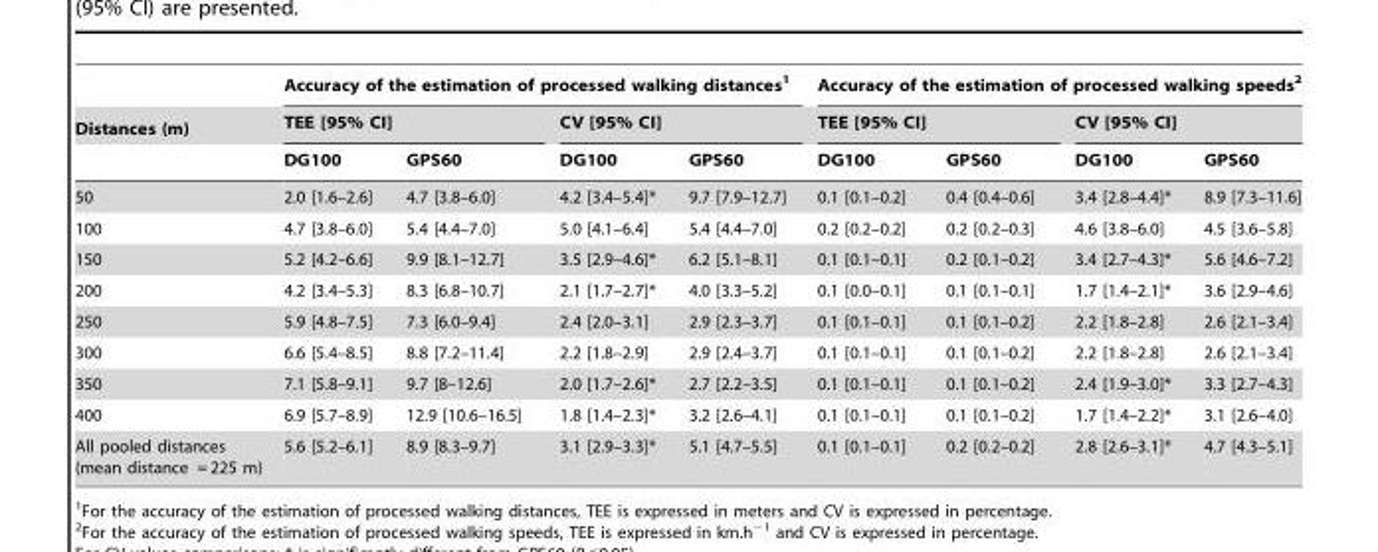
<table><thead><tr><td rowspan="3">Distances (m)</td><td colspan="4">Accuracy of the estimation of processed walking distances<sup>1</sup></td><td colspan="4">Accuracy of the estimation of processed walking speeds<sup>2</sup></td></tr><tr><td colspan="2">TEE [95% CI]</td><td colspan="2">CV [95% CI]</td><td colspan="2">TEE [95% CI]</td><td colspan="2">CV [95% CI]</td></tr><tr><td>DG100</td><td>GPS60</td><td>DG100</td><td>GPS60</td><td>DG100</td><td>GPS60</td><td>DG100</td><td>GPS60</td></tr></thead><tbody><tr><td>50</td><td>2.0 [1.6–2.6]</td><td>4.7 [3.8–6.0]</td><td>4.2 [3.4–5.4]*</td><td>9.7 [7.9–12.7]</td><td>0.1 [0.1–0.2]</td><td>0.4 [0.4–0.6]</td><td>3.4 [2.8–4.4]*</td><td>8.9 [7.3–11.6]</td></tr><tr><td>100</td><td>4.7 [3.8–6.0]</td><td>5.4 [4.4–7.0]</td><td>5.0 [4.1–6.4]</td><td>5.4 [4.4–7.0]</td><td>0.2 [0.2–0.2]</td><td>0.2 [0.2–0.3]</td><td>4.6 [3.8–6.0]</td><td>4.5 [3.6–5.8]</td></tr><tr><td>150</td><td>5.2 [4.2–6.6]</td><td>9.9 [8.1–12.7]</td><td>3.5 [2.9–4.6]*</td><td>6.2 [5.1–8.1]</td><td>0.1 [0.1–0.1]</td><td>0.2 [0.1–0.2]</td><td>3.4 [2.7–4.3]*</td><td>5.6 [4.6–7.2]</td></tr><tr><td>200</td><td>4.2 [3.4–5.3]</td><td>8.3 [6.8–10.7]</td><td>2.1 [1.7–2.7]*</td><td>4.0 [3.3–5.2]</td><td>0.1 [0.0–0.1]</td><td>0.1 [0.1–0.1]</td><td>1.7 [1.4–2.1]*</td><td>3.6 [2.9–4.6]</td></tr><tr><td>250</td><td>5.9 [4.8–7.5]</td><td>7.3 [6.0–9.4]</td><td>2.4 [2.0–3.1]</td><td>2.9 [2.3–3.7]</td><td>0.1 [0.1–0.1]</td><td>0.1 [0.1–0.2]</td><td>2.2 [1.8–2.8]</td><td>2.6 [2.1–3.4]</td></tr><tr><td>300</td><td>6.6 [5.4–8.5]</td><td>8.8 [7.2–11.4]</td><td>2.2 [1.8–2.9]</td><td>2.9 [2.4–3.7]</td><td>0.1 [0.1–0.1]</td><td>0.1 [0.1–0.2]</td><td>2.2 [1.8–2.8]</td><td>2.6 [2.1–3.4]</td></tr><tr><td>350</td><td>7.1 [5.8–9.1]</td><td>9.7 [8–12.6]</td><td>2.0 [1.7–2.6]*</td><td>2.7 [2.2–3.5]</td><td>0.1 [0.1–0.1]</td><td>0.1 [0.1–0.2]</td><td>2.4 [1.9–3.0]*</td><td>3.3 [2.7–4.3]</td></tr><tr><td>400</td><td>6.9 [5.7–8.9]</td><td>12.9 [10.6–16.5]</td><td>1.8 [1.4–2.3]*</td><td>3.2 [2.6–4.1]</td><td>0.1 [0.1–0.1]</td><td>0.1 [0.1–0.2]</td><td>1.7 [1.4–2.2]*</td><td>3.1 [2.6–4.0]</td></tr><tr><td>All pooled distances (mean distance = 225 m)</td><td>5.6 [5.2–6.1]</td><td>8.9 [8.3–9.7]</td><td>3.1 [2.9–3.3]*</td><td>5.1 [4.7–5.5]</td><td>0.1 [0.1–0.1]</td><td>0.2 [0.2–0.2]</td><td>2.8 [2.6–3.1]*</td><td>4.7 [4.3–5.1]</td></tr></tbody></table>